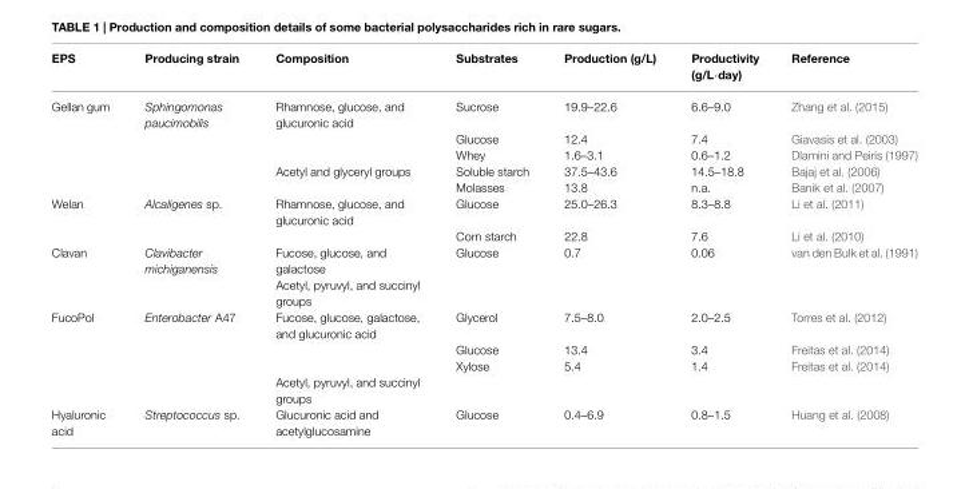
<table><thead><tr><td>EPS</td><td>Producing strain</td><td>Composition</td><td>Substrates</td><td>Production (g/L)</td><td>Productivity (g/L·day)</td><td>Reference</td></tr></thead><tbody><tr><td rowspan="5">Gellan gum</td><td>Sphingomonas paucimobilis</td><td>Rhamnose, glucose, and glucuronic acid</td><td>Sucrose</td><td>19.9–22.6</td><td>6.6–9.0</td><td>Zhang et al. (2015)</td></tr><tr><td></td><td></td><td>Glucose</td><td>12.4</td><td>7.4</td><td>Giavasis et al. (2003)</td></tr><tr><td></td><td></td><td>Whey</td><td>1.6–3.1</td><td>0.6–1.2</td><td>Dlamini and Peiris (1997)</td></tr><tr><td></td><td>Acetyl and glyceryl groups</td><td>Soluble starch</td><td>37.5–43.6</td><td>14.5–18.8</td><td>Bajaj et al. (2006)</td></tr><tr><td></td><td></td><td>Molasses</td><td>13.8</td><td>n.a.</td><td>Banik et al. (2007)</td></tr><tr><td rowspan="2">Welan</td><td>Alcaligenes sp.</td><td>Rhamnose, glucose, and glucuronic acid</td><td>Glucose</td><td>25.0–26.3</td><td>8.3–8.8</td><td>Li et al. (2011)</td></tr><tr><td></td><td></td><td>Corn starch</td><td>22.8</td><td>7.6</td><td>Li et al. (2010)</td></tr><tr><td rowspan="2">Clavan</td><td>Clavibacter michiganensis</td><td>Fucose, glucose, and galactose</td><td>Glucose</td><td>0.7</td><td>0.06</td><td>van den Bulk et al. (1991)</td></tr><tr><td></td><td>Acetyl, pyruvyl, and succinyl groups</td><td></td><td></td><td></td><td></td></tr><tr><td rowspan="4">FucoPol</td><td>Enterobacter A47</td><td>Fucose, glucose, galactose, and glucuronic acid</td><td>Glycerol</td><td>7.5–8.0</td><td>2.0–2.5</td><td>Torres et al. (2012)</td></tr><tr><td></td><td></td><td>Glucose</td><td>13.4</td><td>3.4</td><td>Freitas et al. (2014)</td></tr><tr><td></td><td></td><td>Xylose</td><td>5.4</td><td>1.4</td><td>Freitas et al. (2014)</td></tr><tr><td></td><td>Acetyl, pyruvyl, and succinyl groups</td><td></td><td></td><td></td><td></td></tr><tr><td>Hyaluronic acid</td><td>Streptococcus sp.</td><td>Glucuronic acid and acetylglucosamine</td><td>Glucose</td><td>0.4–6.9</td><td>0.8–1.5</td><td>Huang et al. (2008)</td></tr></tbody></table>